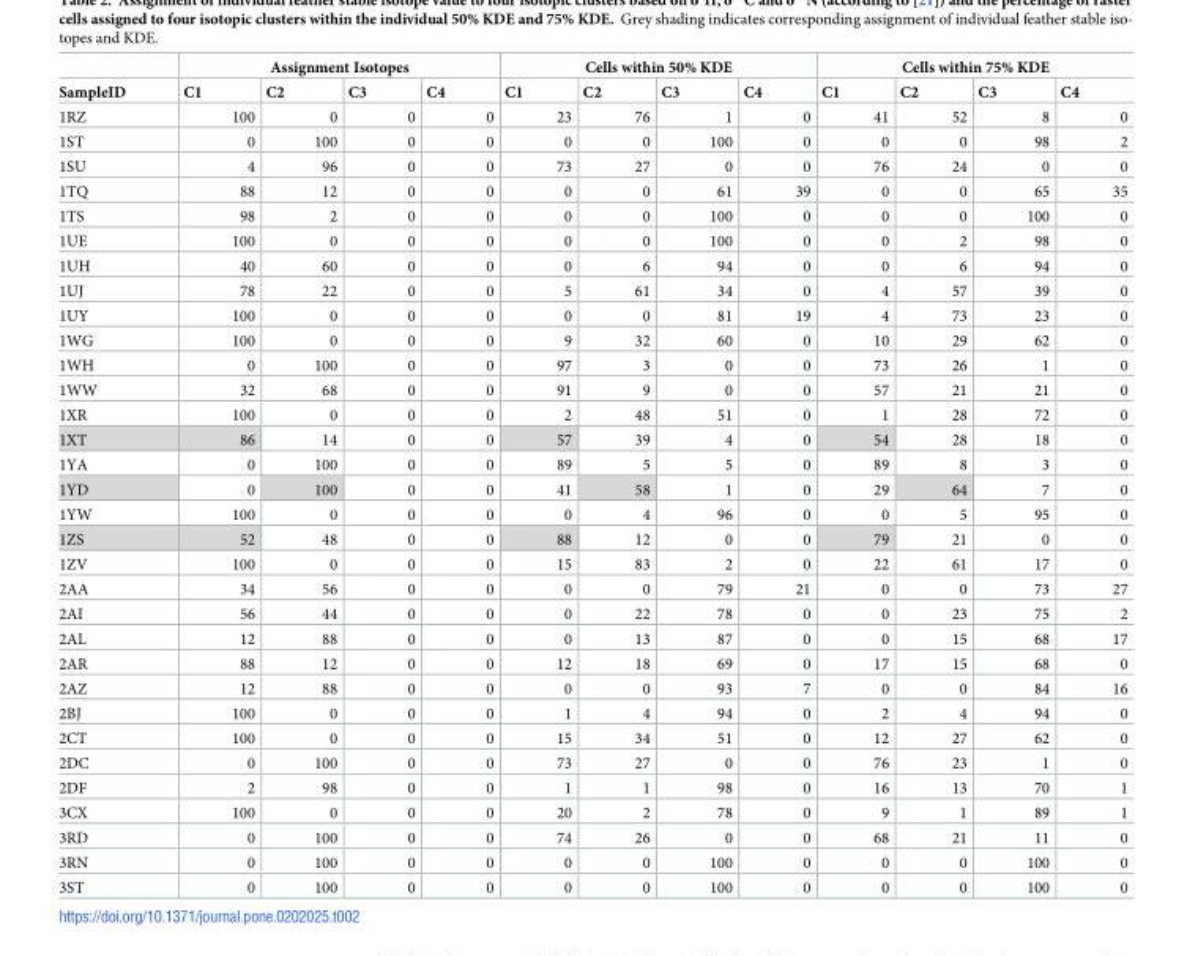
<table><thead><tr><td rowspan="2">SampleID</td><td colspan="4">Assignment Isotopes</td><td colspan="4">Cells within 50% KDE</td><td colspan="4">Cells within 75% KDE</td></tr><tr><td>C1</td><td>C2</td><td>C3</td><td>C4</td><td>C1</td><td>C2</td><td>C3</td><td>C4</td><td>C1</td><td>C2</td><td>C3</td><td>C4</td></tr></thead><tbody><tr><td>1RZ</td><td>100</td><td>0</td><td>0</td><td>0</td><td>23</td><td>76</td><td>1</td><td>0</td><td>41</td><td>52</td><td>8</td><td>0</td></tr><tr><td>1ST</td><td>0</td><td>100</td><td>0</td><td>0</td><td>0</td><td>0</td><td>100</td><td>0</td><td>0</td><td>0</td><td>98</td><td>2</td></tr><tr><td>1SU</td><td>4</td><td>96</td><td>0</td><td>0</td><td>73</td><td>27</td><td>0</td><td>0</td><td>76</td><td>24</td><td>0</td><td>0</td></tr><tr><td>1TQ</td><td>88</td><td>12</td><td>0</td><td>0</td><td>0</td><td>0</td><td>61</td><td>39</td><td>0</td><td>0</td><td>65</td><td>35</td></tr><tr><td>1TS</td><td>98</td><td>2</td><td>0</td><td>0</td><td>0</td><td>0</td><td>100</td><td>0</td><td>0</td><td>0</td><td>100</td><td>0</td></tr><tr><td>1UE</td><td>100</td><td>0</td><td>0</td><td>0</td><td>0</td><td>0</td><td>100</td><td>0</td><td>0</td><td>2</td><td>98</td><td>0</td></tr><tr><td>1UH</td><td>40</td><td>60</td><td>0</td><td>0</td><td>0</td><td>6</td><td>94</td><td>0</td><td>0</td><td>6</td><td>94</td><td>0</td></tr><tr><td>1UJ</td><td>78</td><td>22</td><td>0</td><td>0</td><td>5</td><td>61</td><td>34</td><td>0</td><td>4</td><td>57</td><td>39</td><td>0</td></tr><tr><td>1UY</td><td>100</td><td>0</td><td>0</td><td>0</td><td>0</td><td>0</td><td>81</td><td>19</td><td>4</td><td>73</td><td>23</td><td>0</td></tr><tr><td>1WG</td><td>100</td><td>0</td><td>0</td><td>0</td><td>9</td><td>32</td><td>60</td><td>0</td><td>10</td><td>29</td><td>62</td><td>0</td></tr><tr><td>1WH</td><td>0</td><td>100</td><td>0</td><td>0</td><td>97</td><td>3</td><td>0</td><td>0</td><td>73</td><td>26</td><td>1</td><td>0</td></tr><tr><td>1WW</td><td>32</td><td>68</td><td>0</td><td>0</td><td>91</td><td>9</td><td>0</td><td>0</td><td>57</td><td>21</td><td>21</td><td>0</td></tr><tr><td>1XR</td><td>100</td><td>0</td><td>0</td><td>0</td><td>2</td><td>48</td><td>51</td><td>0</td><td>1</td><td>28</td><td>72</td><td>0</td></tr><tr><td>1XT</td><td>86</td><td>14</td><td>0</td><td>0</td><td>57</td><td>39</td><td>4</td><td>0</td><td>54</td><td>28</td><td>18</td><td>0</td></tr><tr><td>1YA</td><td>0</td><td>100</td><td>0</td><td>0</td><td>89</td><td>5</td><td>5</td><td>0</td><td>89</td><td>8</td><td>3</td><td>0</td></tr><tr><td>1YD</td><td>0</td><td>100</td><td>0</td><td>0</td><td>41</td><td>58</td><td>1</td><td>0</td><td>29</td><td>64</td><td>7</td><td>0</td></tr><tr><td>1YW</td><td>100</td><td>0</td><td>0</td><td>0</td><td>0</td><td>4</td><td>96</td><td>0</td><td>0</td><td>5</td><td>95</td><td>0</td></tr><tr><td>1ZS</td><td>52</td><td>48</td><td>0</td><td>0</td><td>88</td><td>12</td><td>0</td><td>0</td><td>79</td><td>21</td><td>0</td><td>0</td></tr><tr><td>1ZV</td><td>100</td><td>0</td><td>0</td><td>0</td><td>15</td><td>83</td><td>2</td><td>0</td><td>22</td><td>61</td><td>17</td><td>0</td></tr><tr><td>2AA</td><td>34</td><td>56</td><td>0</td><td>0</td><td>0</td><td>0</td><td>79</td><td>21</td><td>0</td><td>0</td><td>73</td><td>27</td></tr><tr><td>2AI</td><td>56</td><td>44</td><td>0</td><td>0</td><td>0</td><td>22</td><td>78</td><td>0</td><td>0</td><td>23</td><td>75</td><td>2</td></tr><tr><td>2AL</td><td>12</td><td>88</td><td>0</td><td>0</td><td>0</td><td>13</td><td>87</td><td>0</td><td>0</td><td>15</td><td>68</td><td>17</td></tr><tr><td>2AR</td><td>88</td><td>12</td><td>0</td><td>0</td><td>12</td><td>18</td><td>69</td><td>0</td><td>17</td><td>15</td><td>68</td><td>0</td></tr><tr><td>2AZ</td><td>12</td><td>88</td><td>0</td><td>0</td><td>0</td><td>0</td><td>93</td><td>7</td><td>0</td><td>0</td><td>84</td><td>16</td></tr><tr><td>2BJ</td><td>100</td><td>0</td><td>0</td><td>0</td><td>1</td><td>4</td><td>94</td><td>0</td><td>2</td><td>4</td><td>94</td><td>0</td></tr><tr><td>2CT</td><td>100</td><td>0</td><td>0</td><td>0</td><td>15</td><td>34</td><td>51</td><td>0</td><td>12</td><td>27</td><td>62</td><td>0</td></tr><tr><td>2DC</td><td>0</td><td>100</td><td>0</td><td>0</td><td>73</td><td>27</td><td>0</td><td>0</td><td>76</td><td>23</td><td>1</td><td>0</td></tr><tr><td>2DF</td><td>2</td><td>98</td><td>0</td><td>0</td><td>1</td><td>1</td><td>98</td><td>0</td><td>16</td><td>13</td><td>70</td><td>1</td></tr><tr><td>3CX</td><td>100</td><td>0</td><td>0</td><td>0</td><td>20</td><td>2</td><td>78</td><td>0</td><td>9</td><td>1</td><td>89</td><td>1</td></tr><tr><td>3RD</td><td>0</td><td>100</td><td>0</td><td>0</td><td>74</td><td>26</td><td>0</td><td>0</td><td>68</td><td>21</td><td>11</td><td>0</td></tr><tr><td>3RN</td><td>0</td><td>100</td><td>0</td><td>0</td><td>0</td><td>0</td><td>100</td><td>0</td><td>0</td><td>0</td><td>100</td><td>0</td></tr><tr><td>3ST</td><td>0</td><td>100</td><td>0</td><td>0</td><td>0</td><td>0</td><td>100</td><td>0</td><td>0</td><td>0</td><td>100</td><td>0</td></tr></tbody></table>